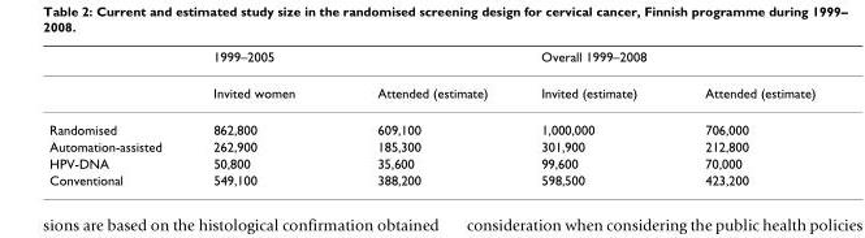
<table><thead><tr><td rowspan="2"></td><td colspan="2">1999–2005</td><td colspan="2">Overall 1999–2008</td></tr><tr><td>Invited women</td><td>Attended (estimate)</td><td>Invited (estimate)</td><td>Attended (estimate)</td></tr></thead><tbody><tr><td>Randomised</td><td>862,800</td><td>609,100</td><td>1,000,000</td><td>706,000</td></tr><tr><td>Automation-assisted</td><td>262,900</td><td>185,300</td><td>301,900</td><td>212,800</td></tr><tr><td>HPV-DNA</td><td>50,800</td><td>35,600</td><td>99,600</td><td>70,000</td></tr><tr><td>Conventional</td><td>549,100</td><td>388,200</td><td>598,500</td><td>423,200</td></tr></tbody></table>